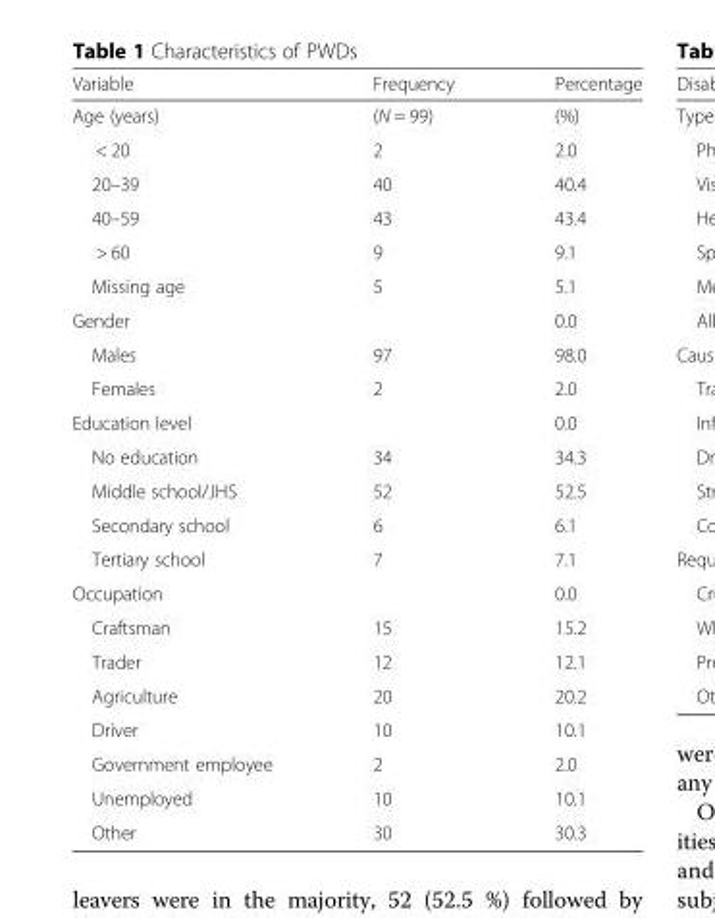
<table><thead><tr><td>Variable</td><td>Frequency</td><td>Percentage</td></tr></thead><tbody><tr><td>Age (years)</td><td>(N = 99)</td><td>(%)</td></tr><tr><td>&lt; 20</td><td>2</td><td>2.0</td></tr><tr><td>20–39</td><td>40</td><td>40.4</td></tr><tr><td>40–59</td><td>43</td><td>43.4</td></tr><tr><td>&gt; 60</td><td>9</td><td>9.1</td></tr><tr><td>Missing age</td><td>5</td><td>5.1</td></tr><tr><td>Gender</td><td></td><td>0.0</td></tr><tr><td>Males</td><td>97</td><td>98.0</td></tr><tr><td>Females</td><td>2</td><td>2.0</td></tr><tr><td>Education level</td><td></td><td>0.0</td></tr><tr><td>No education</td><td>34</td><td>34.3</td></tr><tr><td>Middle school/JHS</td><td>52</td><td>52.5</td></tr><tr><td>Secondary school</td><td>6</td><td>6.1</td></tr><tr><td>Tertiary school</td><td>7</td><td>7.1</td></tr><tr><td>Occupation</td><td></td><td>0.0</td></tr><tr><td>Craftsman</td><td>15</td><td>15.2</td></tr><tr><td>Trader</td><td>12</td><td>12.1</td></tr><tr><td>Agriculture</td><td>20</td><td>20.2</td></tr><tr><td>Driver</td><td>10</td><td>10.1</td></tr><tr><td>Government employee</td><td>2</td><td>2.0</td></tr><tr><td>Unemployed</td><td>10</td><td>10.1</td></tr><tr><td>Other</td><td>30</td><td>30.3</td></tr></tbody></table>